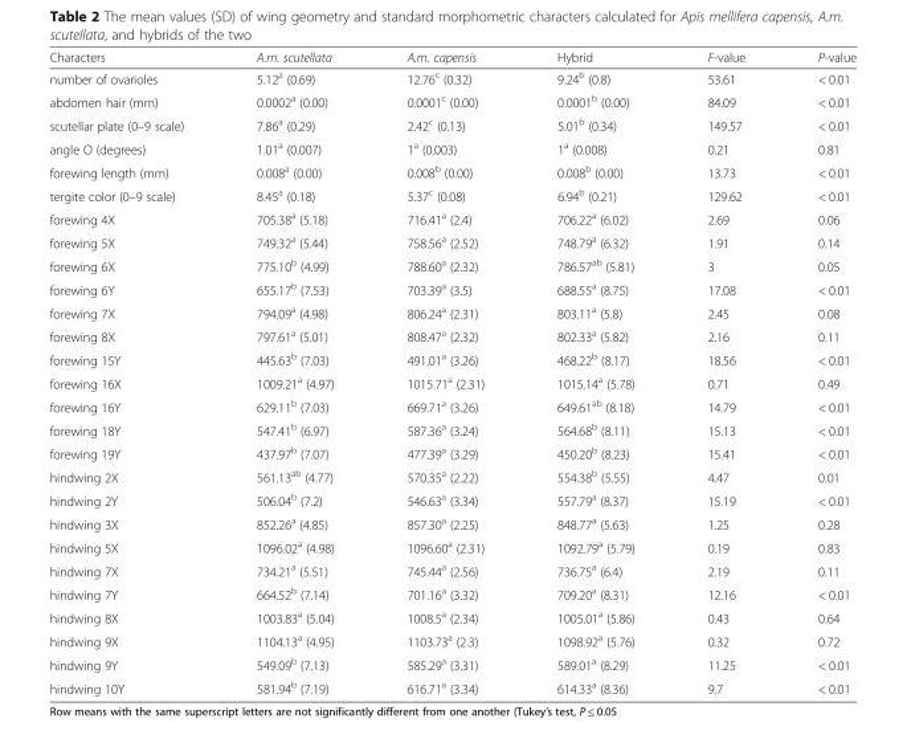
<table><thead><tr><td>Characters</td><td>A.m. scutellata</td><td>A.m. capensis</td><td>Hybrid</td><td>F-value</td><td>P-value</td></tr></thead><tbody><tr><td>number of ovarioles</td><td>5.12<sup>a</sup> (0.69)</td><td>12.76<sup>c</sup> (0.32)</td><td>9.24<sup>b</sup> (0.8)</td><td>53.61</td><td>&lt; 0.01</td></tr><tr><td>abdomen hair (mm)</td><td>0.0002<sup>a</sup> (0.00)</td><td>0.0001<sup>c</sup> (0.00)</td><td>0.0001<sup>b</sup> (0.00)</td><td>84.09</td><td>&lt; 0.01</td></tr><tr><td>scutellar plate (0–9 scale)</td><td>7.86<sup>a</sup> (0.29)</td><td>2.42<sup>c</sup> (0.13)</td><td>5.01<sup>b</sup> (0.34)</td><td>149.57</td><td>&lt; 0.01</td></tr><tr><td>angle O (degrees)</td><td>1.01<sup>a</sup> (0.007)</td><td>1<sup>a</sup> (0.003)</td><td>1<sup>a</sup> (0.008)</td><td>0.21</td><td>0.81</td></tr><tr><td>forewing length (mm)</td><td>0.008<sup>a</sup> (0.00)</td><td>0.008<sup>b</sup> (0.00)</td><td>0.008<sup>b</sup> (0.00)</td><td>13.73</td><td>&lt; 0.01</td></tr><tr><td>tergite color (0–9 scale)</td><td>8.45<sup>a</sup> (0.18)</td><td>5.37<sup>c</sup> (0.08)</td><td>6.94<sup>b</sup> (0.21)</td><td>129.62</td><td>&lt; 0.01</td></tr><tr><td>forewing 4X</td><td>705.38<sup>a</sup> (5.18)</td><td>716.41<sup>a</sup> (2.4)</td><td>706.22<sup>a</sup> (6.02)</td><td>2.69</td><td>0.06</td></tr><tr><td>forewing 5X</td><td>749.32<sup>a</sup> (5.44)</td><td>758.56<sup>a</sup> (2.52)</td><td>748.79<sup>a</sup> (6.32)</td><td>1.91</td><td>0.14</td></tr><tr><td>forewing 6X</td><td>775.10<sup>b</sup> (4.99)</td><td>788.60<sup>a</sup> (2.32)</td><td>786.57<sup>ab</sup> (5.81)</td><td>3</td><td>0.05</td></tr><tr><td>forewing 6Y</td><td>655.17<sup>b</sup> (7.53)</td><td>703.39<sup>a</sup> (3.5)</td><td>688.55<sup>a</sup> (8.75)</td><td>17.08</td><td>&lt; 0.01</td></tr><tr><td>forewing 7X</td><td>794.09<sup>a</sup> (4.98)</td><td>806.24<sup>a</sup> (2.31)</td><td>803.11<sup>a</sup> (5.8)</td><td>2.45</td><td>0.08</td></tr><tr><td>forewing 8X</td><td>797.61<sup>a</sup> (5.01)</td><td>808.47<sup>a</sup> (2.32)</td><td>802.33<sup>a</sup> (5.82)</td><td>2.16</td><td>0.11</td></tr><tr><td>forewing 15Y</td><td>445.63<sup>b</sup> (7.03)</td><td>491.01<sup>a</sup> (3.26)</td><td>468.22<sup>b</sup> (8.17)</td><td>18.56</td><td>&lt; 0.01</td></tr><tr><td>forewing 16X</td><td>1009.21<sup>a</sup> (4.97)</td><td>1015.71<sup>a</sup> (2.31)</td><td>1015.14<sup>a</sup> (5.78)</td><td>0.71</td><td>0.49</td></tr><tr><td>forewing 16Y</td><td>629.11<sup>b</sup> (7.03)</td><td>669.71<sup>a</sup> (3.26)</td><td>649.61<sup>ab</sup> (8.18)</td><td>14.79</td><td>&lt; 0.01</td></tr><tr><td>forewing 18Y</td><td>547.41<sup>b</sup> (6.97)</td><td>587.36<sup>a</sup> (3.24)</td><td>564.68<sup>b</sup> (8.11)</td><td>15.13</td><td>&lt; 0.01</td></tr><tr><td>forewing 19Y</td><td>437.97<sup>b</sup> (7.07)</td><td>477.39<sup>a</sup> (3.29)</td><td>450.20<sup>b</sup> (8.23)</td><td>15.41</td><td>&lt; 0.01</td></tr><tr><td>hindwing 2X</td><td>561.13<sup>ab</sup> (4.77)</td><td>570.35<sup>a</sup> (2.22)</td><td>554.38<sup>b</sup> (5.55)</td><td>4.47</td><td>0.01</td></tr><tr><td>hindwing 2Y</td><td>506.04<sup>b</sup> (7.2)</td><td>546.63<sup>a</sup> (3.34)</td><td>557.79<sup>a</sup> (8.37)</td><td>15.19</td><td>&lt; 0.01</td></tr><tr><td>hindwing 3X</td><td>852.26<sup>a</sup> (4.85)</td><td>857.30<sup>a</sup> (2.25)</td><td>848.77<sup>a</sup> (5.63)</td><td>1.25</td><td>0.28</td></tr><tr><td>hindwing 5X</td><td>1096.02<sup>a</sup> (4.98)</td><td>1096.60<sup>a</sup> (2.31)</td><td>1092.79<sup>a</sup> (5.79)</td><td>0.19</td><td>0.83</td></tr><tr><td>hindwing 7X</td><td>734.21<sup>a</sup> (5.51)</td><td>745.44<sup>a</sup> (2.56)</td><td>736.75<sup>a</sup> (6.4)</td><td>2.19</td><td>0.11</td></tr><tr><td>hindwing 7Y</td><td>664.52<sup>b</sup> (7.14)</td><td>701.16<sup>a</sup> (3.32)</td><td>709.20<sup>a</sup> (8.31)</td><td>12.16</td><td>&lt; 0.01</td></tr><tr><td>hindwing 8X</td><td>1003.83<sup>a</sup> (5.04)</td><td>1008.5<sup>a</sup> (2.34)</td><td>1005.01<sup>a</sup> (5.86)</td><td>0.43</td><td>0.64</td></tr><tr><td>hindwing 9X</td><td>1104.13<sup>a</sup> (4.95)</td><td>1103.73<sup>a</sup> (2.3)</td><td>1098.92<sup>a</sup> (5.76)</td><td>0.32</td><td>0.72</td></tr><tr><td>hindwing 9Y</td><td>549.09<sup>b</sup> (7.13)</td><td>585.29<sup>a</sup> (3.31)</td><td>589.01<sup>a</sup> (8.29)</td><td>11.25</td><td>&lt; 0.01</td></tr><tr><td>hindwing 10Y</td><td>581.94<sup>b</sup> (7.19)</td><td>616.71<sup>a</sup> (3.34)</td><td>614.33<sup>a</sup> (8.36)</td><td>9.7</td><td>&lt; 0.01</td></tr></tbody></table>